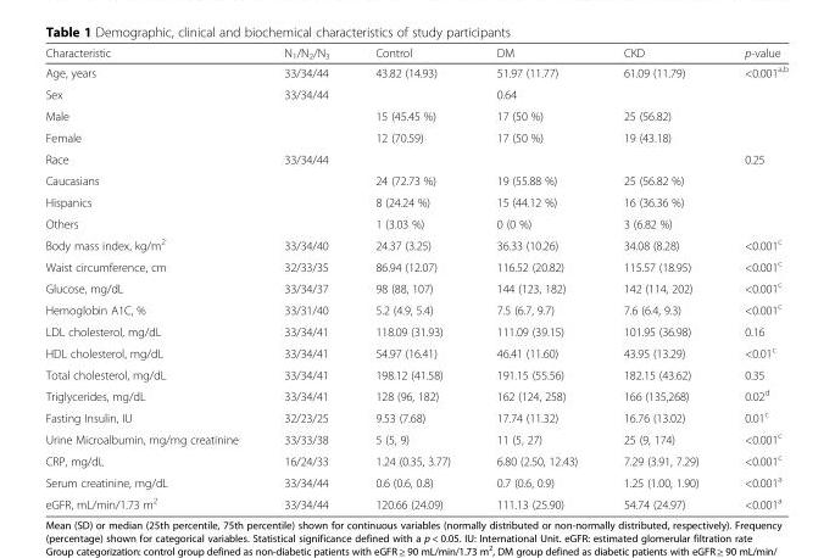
<table><thead><tr><td>Characteristic</td><td>N<sub>1</sub>/N<sub>2</sub>/N<sub>3</sub></td><td>Control</td><td>DM</td><td>CKD</td><td>p-value</td></tr></thead><tbody><tr><td>Age, years</td><td>33/34/44</td><td>43.82 (14.93)</td><td>51.97 (11.77)</td><td>61.09 (11.79)</td><td>&lt;0.001<sup>a,b</sup></td></tr><tr><td>Sex</td><td rowspan="3">33/34/44</td><td></td><td>0.64</td><td></td><td></td></tr><tr><td>Male</td><td>15 (45.45 %)</td><td>17 (50 %)</td><td>25 (56.82)</td><td></td></tr><tr><td>Female</td><td>12 (70.59)</td><td>17 (50 %)</td><td>19 (43.18)</td><td></td></tr><tr><td>Race</td><td rowspan="4">33/34/44</td><td colspan="3"></td><td>0.25</td></tr><tr><td>Caucasians</td><td>24 (72.73 %)</td><td>19 (55.88 %)</td><td>25 (56.82 %)</td><td></td></tr><tr><td>Hispanics</td><td>8 (24.24 %)</td><td>15 (44.12 %)</td><td>16 (36.36 %)</td><td></td></tr><tr><td>Others</td><td>1 (3.03 %)</td><td>0 (0 %)</td><td>3 (6.82 %)</td><td></td></tr><tr><td>Body mass index, kg/m<sup>2</sup></td><td>33/34/40</td><td>24.37 (3.25)</td><td>36.33 (10.26)</td><td>34.08 (8.28)</td><td>&lt;0.001<sup>c</sup></td></tr><tr><td>Waist circumference, cm</td><td>32/33/35</td><td>86.94 (12.07)</td><td>116.52 (20.82)</td><td>115.57 (18.95)</td><td>&lt;0.001<sup>c</sup></td></tr><tr><td>Glucose, mg/dL</td><td>33/34/37</td><td>98 (88, 107)</td><td>144 (123, 182)</td><td>142 (114, 202)</td><td>&lt;0.001<sup>c</sup></td></tr><tr><td>Hemoglobin A1C, %</td><td>33/31/40</td><td>5.2 (4.9, 5.4)</td><td>7.5 (6.7, 9.7)</td><td>7.6 (6.4, 9.3)</td><td>&lt;0.001<sup>c</sup></td></tr><tr><td>LDL cholesterol, mg/dL</td><td>33/34/41</td><td>118.09 (31.93)</td><td>111.09 (39.15)</td><td>101.95 (36.98)</td><td>0.16</td></tr><tr><td>HDL cholesterol, mg/dL</td><td>33/34/41</td><td>54.97 (16.41)</td><td>46.41 (11.60)</td><td>43.95 (13.29)</td><td>&lt;0.01<sup>c</sup></td></tr><tr><td>Total cholesterol, mg/dL</td><td>33/34/41</td><td>198.12 (41.58)</td><td>191.15 (55.56)</td><td>182.15 (43.62)</td><td>0.35</td></tr><tr><td>Triglycerides, mg/dL</td><td>33/34/41</td><td>128 (96, 182)</td><td>162 (124, 258)</td><td>166 (135,268)</td><td>0.02<sup>d</sup></td></tr><tr><td>Fasting Insulin, IU</td><td>32/23/25</td><td>9.53 (7.68)</td><td>17.74 (11.32)</td><td>16.76 (13.02)</td><td>0.01<sup>c</sup></td></tr><tr><td>Urine Microalbumin, mg/mg creatinine</td><td>33/33/38</td><td>5 (5, 9)</td><td>11 (5, 27)</td><td>25 (9, 174)</td><td>&lt;0.001<sup>c</sup></td></tr><tr><td>CRP, mg/dL</td><td>16/24/33</td><td>1.24 (0.35, 3.77)</td><td>6.80 (2.50, 12.43)</td><td>7.29 (3.91, 7.29)</td><td>&lt;0.001<sup>c</sup></td></tr><tr><td>Serum creatinine, mg/dL</td><td>33/34/44</td><td>0.6 (0.6, 0.8)</td><td>0.7 (0.6, 0.9)</td><td>1.25 (1.00, 1.90)</td><td>&lt;0.001<sup>a</sup></td></tr><tr><td>eGFR, mL/min/1.73 m<sup>2</sup></td><td>33/34/44</td><td>120.66 (24.09)</td><td>111.13 (25.90)</td><td>54.74 (24.97)</td><td>&lt;0.001<sup>a</sup></td></tr></tbody></table>